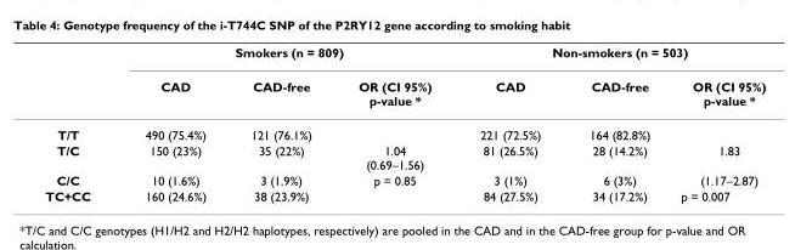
<table><thead><tr><td rowspan="2"></td><td colspan="3">Smokers (n = 809)</td><td colspan="3">Non-smokers (n = 503)</td></tr><tr><td>CAD</td><td>CAD-free</td><td>OR (CI 95%) p-value *</td><td>CAD</td><td>CAD-free</td><td>OR (CI 95%) p-value *</td></tr></thead><tbody><tr><td>T/T</td><td>490 (75.4%)</td><td>121 (76.1%)</td><td></td><td>221 (72.5%)</td><td>164 (82.8%)</td><td></td></tr><tr><td>T/C</td><td>150 (23%)</td><td>35 (22%)</td><td>1.04 (0.69–1.56)</td><td>81 (26.5%)</td><td>28 (14.2%)</td><td>1.83</td></tr><tr><td>C/C</td><td>10 (1.6%)</td><td>3 (1.9%)</td><td>p = 0.85</td><td>3 (1%)</td><td>6 (3%)</td><td>(1.17–2.87)</td></tr><tr><td>TC+CC</td><td>160 (24.6%)</td><td>38 (23.9%)</td><td></td><td>84 (27.5%)</td><td>34 (17.2%)</td><td>p = 0.007</td></tr></tbody></table>